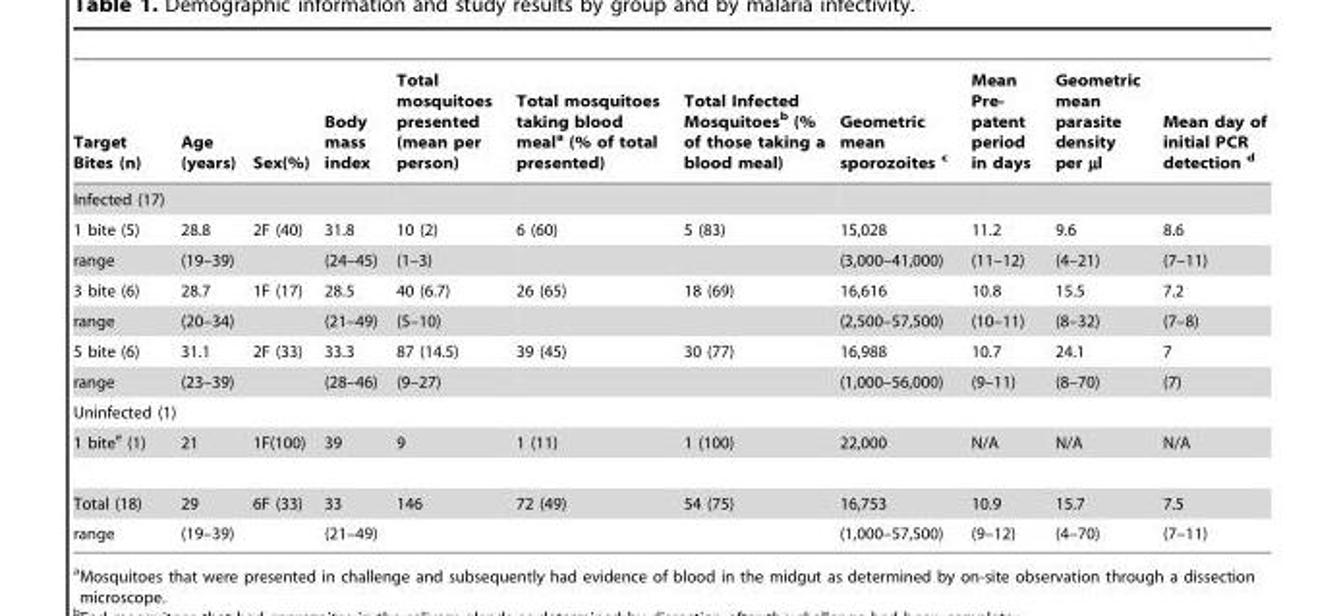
<table><thead><tr><td>Target Bites (n)</td><td>Age (years)</td><td>Sex(%)</td><td>Body mass index</td><td>Total mosquitoes presented (mean per person)</td><td>Total mosquitoes taking blood meal<sup>a</sup> (% of total presented)</td><td>Total Infected Mosquitoes<sup>b</sup> (% of those taking a blood meal)</td><td>Geometric mean sporozoites c</td><td>Mean Pre- patent period in days</td><td>Geometric mean parasite density per µl</td><td>Mean day of initial PCR detection d</td></tr></thead><tbody><tr><td colspan="11">Infected (17)</td></tr><tr><td>1 bite (5)</td><td>28.8</td><td>2F (40)</td><td>31.8</td><td>10 (2)</td><td>6 (60)</td><td>5 (83)</td><td>15,028</td><td>11.2</td><td>9.6</td><td>8.6</td></tr><tr><td>range</td><td>(19–39)</td><td></td><td>(24–45)</td><td>(1–3)</td><td></td><td></td><td>(3,000–41,000)</td><td>(11–12)</td><td>(4–21)</td><td>(7–11)</td></tr><tr><td>3 bite (6)</td><td>28.7</td><td>1F (17)</td><td>28.5</td><td>40 (6.7)</td><td>26 (65)</td><td>18 (69)</td><td>16,616</td><td>10.8</td><td>15.5</td><td>7.2</td></tr><tr><td>range</td><td>(20–34)</td><td></td><td>(21–49)</td><td>(5–10)</td><td></td><td></td><td>(2,500–57,500)</td><td>(10–11)</td><td>(8–32)</td><td>(7–8)</td></tr><tr><td>5 bite (6)</td><td>31.1</td><td>2F (33)</td><td>33.3</td><td>87 (14.5)</td><td>39 (45)</td><td>30 (77)</td><td>16,988</td><td>10.7</td><td>24.1</td><td>7</td></tr><tr><td>range</td><td>(23–39)</td><td></td><td>(28–46)</td><td>(9–27)</td><td></td><td></td><td>(1,000–56,000)</td><td>(9–11)</td><td>(8–70)</td><td>(7)</td></tr><tr><td colspan="11">Uninfected (1)</td></tr><tr><td>1 bite<sup>e</sup> (1)</td><td>21</td><td>1F(100)</td><td>39</td><td>9</td><td>1 (11)</td><td>1 (100)</td><td>22,000</td><td>N/A</td><td>N/A</td><td>N/A</td></tr><tr><td>Total (18)</td><td>29</td><td>6F (33)</td><td>33</td><td>146</td><td>72 (49)</td><td>54 (75)</td><td>16,753</td><td>10.9</td><td>15.7</td><td>7.5</td></tr><tr><td>range</td><td>(19–39)</td><td></td><td>(21–49)</td><td></td><td></td><td></td><td>(1,000–57,500)</td><td>(9–12)</td><td>(4–70)</td><td>(7–11)</td></tr></tbody></table>